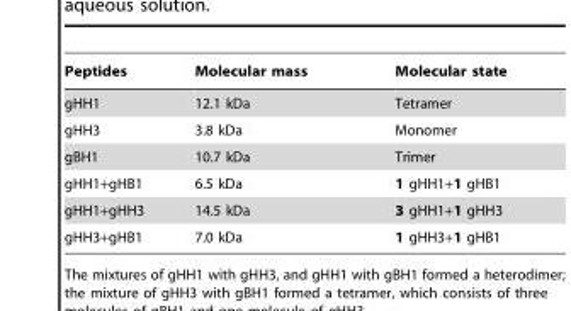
<table><thead><tr><td>Peptides</td><td>Molecular mass</td><td>Molecular state</td></tr></thead><tbody><tr><td>gHH1</td><td>12.1 kDa</td><td>Tetramer</td></tr><tr><td>gHH3</td><td>3.8 kDa</td><td>Monomer</td></tr><tr><td>gBH1</td><td>10.7 kDa</td><td>Trimer</td></tr><tr><td>gHH1+gHB1</td><td>6.5 kDa</td><td>1 gHH1+1 gHB1</td></tr><tr><td>gHH1+gHH3</td><td>14.5 kDa</td><td>3 gHH1+1 gHH3</td></tr><tr><td>gHH3+gHB1</td><td>7.0 kDa</td><td>1 gHH3+1 gHB1</td></tr></tbody></table>